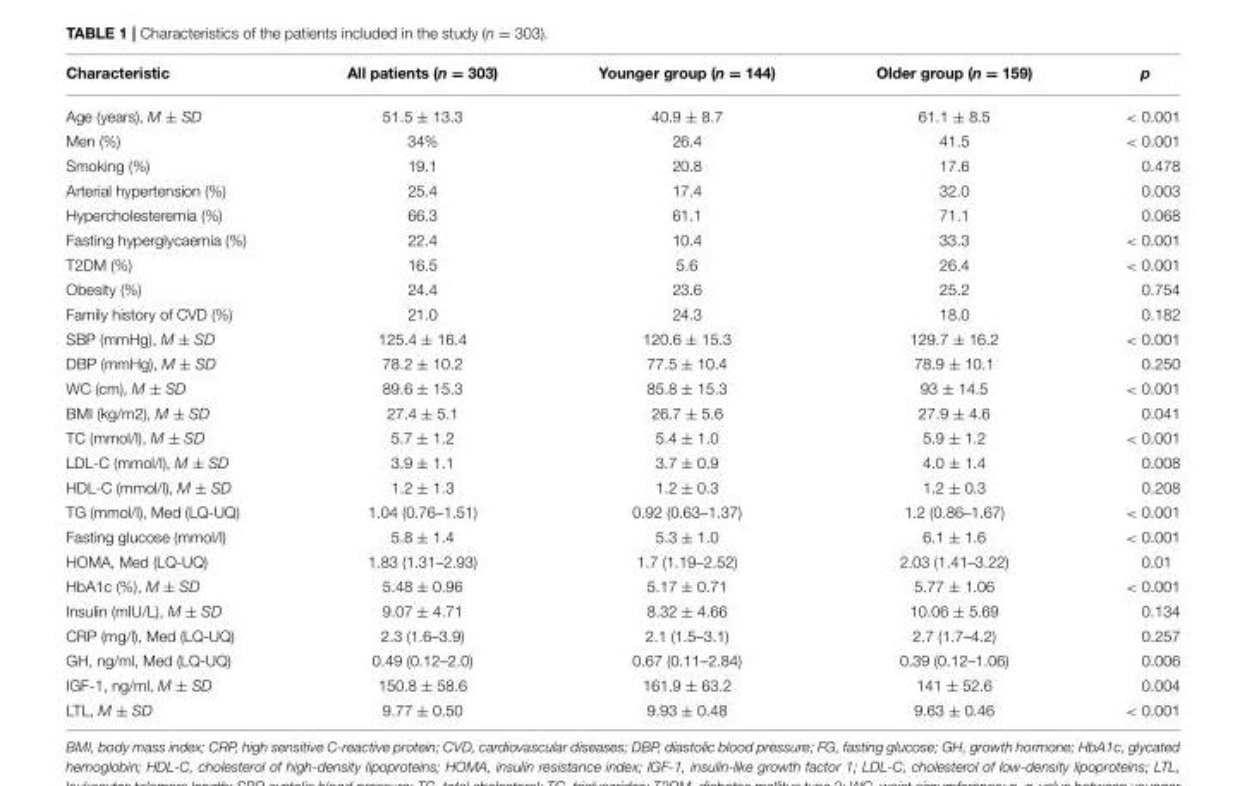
<table><thead><tr><td>Characteristic</td><td>All patients (n = 303)</td><td>Younger group (n = 144)</td><td>Older group (n = 159)</td><td>p</td></tr></thead><tbody><tr><td>Age (years), M ± SD</td><td>51.5 ± 13.3</td><td>40.9 ± 8.7</td><td>61.1 ± 8.5</td><td>&lt; 0.001</td></tr><tr><td>Men (%)</td><td>34%</td><td>26.4</td><td>41.5</td><td>&lt; 0.001</td></tr><tr><td>Smoking (%)</td><td>19.1</td><td>20.8</td><td>17.6</td><td>0.478</td></tr><tr><td>Arterial hypertension (%)</td><td>25.4</td><td>17.4</td><td>32.0</td><td>0.003</td></tr><tr><td>Hypercholesteremia (%)</td><td>66.3</td><td>61.1</td><td>71.1</td><td>0.068</td></tr><tr><td>Fasting hyperglycaemia (%)</td><td>22.4</td><td>10.4</td><td>33.3</td><td>&lt; 0.001</td></tr><tr><td>T2DM (%)</td><td>16.5</td><td>5.6</td><td>26.4</td><td>&lt; 0.001</td></tr><tr><td>Obesity (%)</td><td>24.4</td><td>23.6</td><td>25.2</td><td>0.754</td></tr><tr><td>Family history of CVD (%)</td><td>21.0</td><td>24.3</td><td>18.0</td><td>0.182</td></tr><tr><td>SBP (mmHg), M ± SD</td><td>125.4 ± 16.4</td><td>120.6 ± 15.3</td><td>129.7 ± 16.2</td><td>&lt; 0.001</td></tr><tr><td>DBP (mmHg), M ± SD</td><td>78.2 ± 10.2</td><td>77.5 ± 10.4</td><td>78.9 ± 10.1</td><td>0.250</td></tr><tr><td>WC (cm), M ± SD</td><td>89.6 ± 15.3</td><td>85.8 ± 15.3</td><td>93 ± 14.5</td><td>&lt; 0.001</td></tr><tr><td>BMI (kg/m2), M ± SD</td><td>27.4 ± 5.1</td><td>26.7 ± 5.6</td><td>27.9 ± 4.6</td><td>0.041</td></tr><tr><td>TC (mmol/l), M ± SD</td><td>5.7 ± 1.2</td><td>5.4 ± 1.0</td><td>5.9 ± 1.2</td><td>&lt; 0.001</td></tr><tr><td>LDL-C (mmol/l), M ± SD</td><td>3.9 ± 1.1</td><td>3.7 ± 0.9</td><td>4.0 ± 1.4</td><td>0.008</td></tr><tr><td>HDL-C (mmol/l), M ± SD</td><td>1.2 ± 1.3</td><td>1.2 ± 0.3</td><td>1.2 ± 0.3</td><td>0.208</td></tr><tr><td>TG (mmol/l), Med (LQ-UQ)</td><td>1.04 (0.76–1.51)</td><td>0.92 (0.63–1.37)</td><td>1.2 (0.86–1.67)</td><td>&lt; 0.001</td></tr><tr><td>Fasting glucose (mmol/l)</td><td>5.8 ± 1.4</td><td>5.3 ± 1.0</td><td>6.1 ± 1.6</td><td>&lt; 0.001</td></tr><tr><td>HOMA, Med (LQ-UQ)</td><td>1.83 (1.31–2.93)</td><td>1.7 (1.19–2.52)</td><td>2.03 (1.41–3.22)</td><td>0.01</td></tr><tr><td>HbA1c (%), M ± SD</td><td>5.48 ± 0.96</td><td>5.17 ± 0.71</td><td>5.77 ± 1.06</td><td>&lt; 0.001</td></tr><tr><td>Insulin (mIU/L), M ± SD</td><td>9.07 ± 4.71</td><td>8.32 ± 4.66</td><td>10.06 ± 5.69</td><td>0.134</td></tr><tr><td>CRP (mg/l), Med (LQ-UQ)</td><td>2.3 (1.6–3.9)</td><td>2.1 (1.5–3.1)</td><td>2.7 (1.7–4.2)</td><td>0.257</td></tr><tr><td>GH, ng/ml, Med (LQ-UQ)</td><td>0.49 (0.12–2.0)</td><td>0.67 (0.11–2.84)</td><td>0.39 (0.12–1.06)</td><td>0.006</td></tr><tr><td>IGF-1, ng/ml, M ± SD</td><td>150.8 ± 58.6</td><td>161.9 ± 63.2</td><td>141 ± 52.6</td><td>0.004</td></tr><tr><td>LTL, M ± SD</td><td>9.77 ± 0.50</td><td>9.93 ± 0.48</td><td>9.63 ± 0.46</td><td>&lt; 0.001</td></tr></tbody></table>